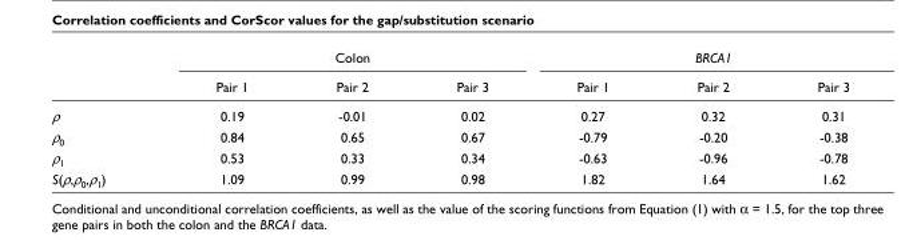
<table><thead><tr><td rowspan="2"></td><td colspan="3">Colon</td><td colspan="3">BRCA1</td></tr><tr><td>Pair 1</td><td>Pair 2</td><td>Pair 3</td><td>Pair 1</td><td>Pair 2</td><td>Pair 3</td></tr></thead><tbody><tr><td>ρ</td><td>0.19</td><td>-0.01</td><td>0.02</td><td>0.27</td><td>0.32</td><td>0.31</td></tr><tr><td>ρ0</td><td>0.84</td><td>0.65</td><td>0.67</td><td>-0.79</td><td>-0.20</td><td>-0.38</td></tr><tr><td>ρ1</td><td>0.53</td><td>0.33</td><td>0.34</td><td>-0.63</td><td>-0.96</td><td>-0.78</td></tr><tr><td>S(ρ,ρ0,ρ1)</td><td>1.09</td><td>0.99</td><td>0.98</td><td>1.82</td><td>1.64</td><td>1.62</td></tr></tbody></table>